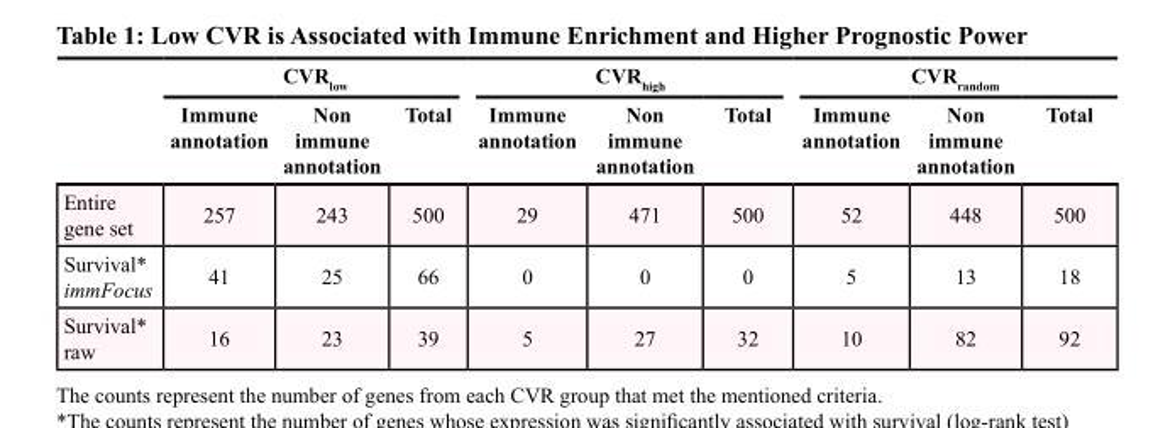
<table><thead><tr><td rowspan="2"></td><td colspan="3">CVR<sub>low</sub></td><td colspan="3">CVR<sub>high</sub></td><td colspan="3">CVR<sub>random</sub></td></tr><tr><td>Immune annotation</td><td>Non immune annotation</td><td>Total</td><td>Immune annotation</td><td>Non immune annotation</td><td>Total</td><td>Immune annotation</td><td>Non immune annotation</td><td>Total</td></tr></thead><tbody><tr><td>Entire gene set</td><td>257</td><td>243</td><td>500</td><td>29</td><td>471</td><td>500</td><td>52</td><td>448</td><td>500</td></tr><tr><td>Survival* immFocus</td><td>41</td><td>25</td><td>66</td><td>0</td><td>0</td><td>0</td><td>5</td><td>13</td><td>18</td></tr><tr><td>Survival* raw</td><td>16</td><td>23</td><td>39</td><td>5</td><td>27</td><td>32</td><td>10</td><td>82</td><td>92</td></tr></tbody></table>